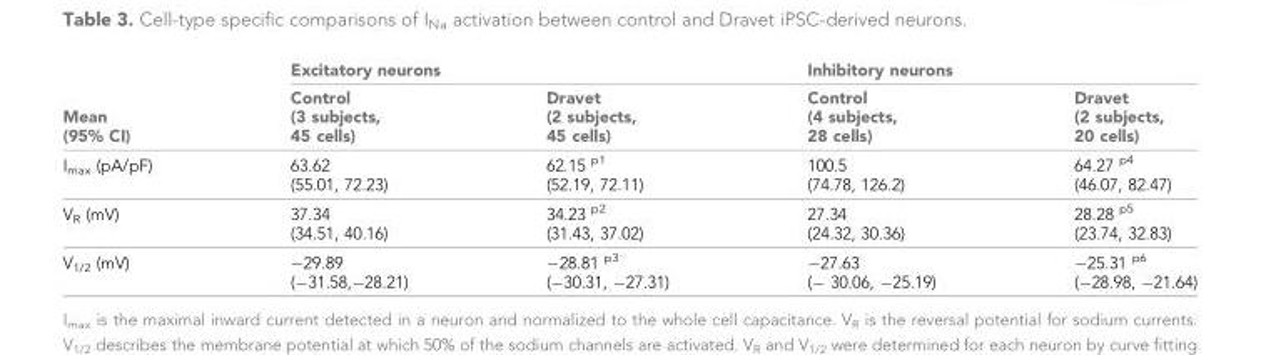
<table><thead><tr><td rowspan="2">Mean (95% CI)</td><td colspan="2">Excitatory neurons</td><td colspan="2">Inhibitory neurons</td></tr><tr><td>Control (3 subjects, 45 cells)</td><td>Dravet (2 subjects, 45 cells)</td><td>Control (4 subjects, 28 cells)</td><td>Dravet (2 subjects, 20 cells)</td></tr></thead><tbody><tr><td>I<sub>max</sub> (pA/pF)</td><td>63.62 (55.01, 72.23)</td><td>62.15 <sup>p1</sup> (52.19, 72.11)</td><td>100.5 (74.78, 126.2)</td><td>64.27 <sup>p4</sup> (46.07, 82.47)</td></tr><tr><td>V<sub>R</sub> (mV)</td><td>37.34 (34.51, 40.16)</td><td>34.23 <sup>p2</sup> (31.43, 37.02)</td><td>27.34 (24.32, 30.36)</td><td>28.28 <sup>p5</sup> (23.74, 32.83)</td></tr><tr><td>V<sub>1/2</sub> (mV)</td><td>−29.89 (−31.58,−28.21)</td><td>−28.81 <sup>p3</sup> (−30.31, −27.31)</td><td>−27.63 (− 30.06, −25.19)</td><td>−25.31 <sup>p6</sup> (−28.98, −21.64)</td></tr></tbody></table>